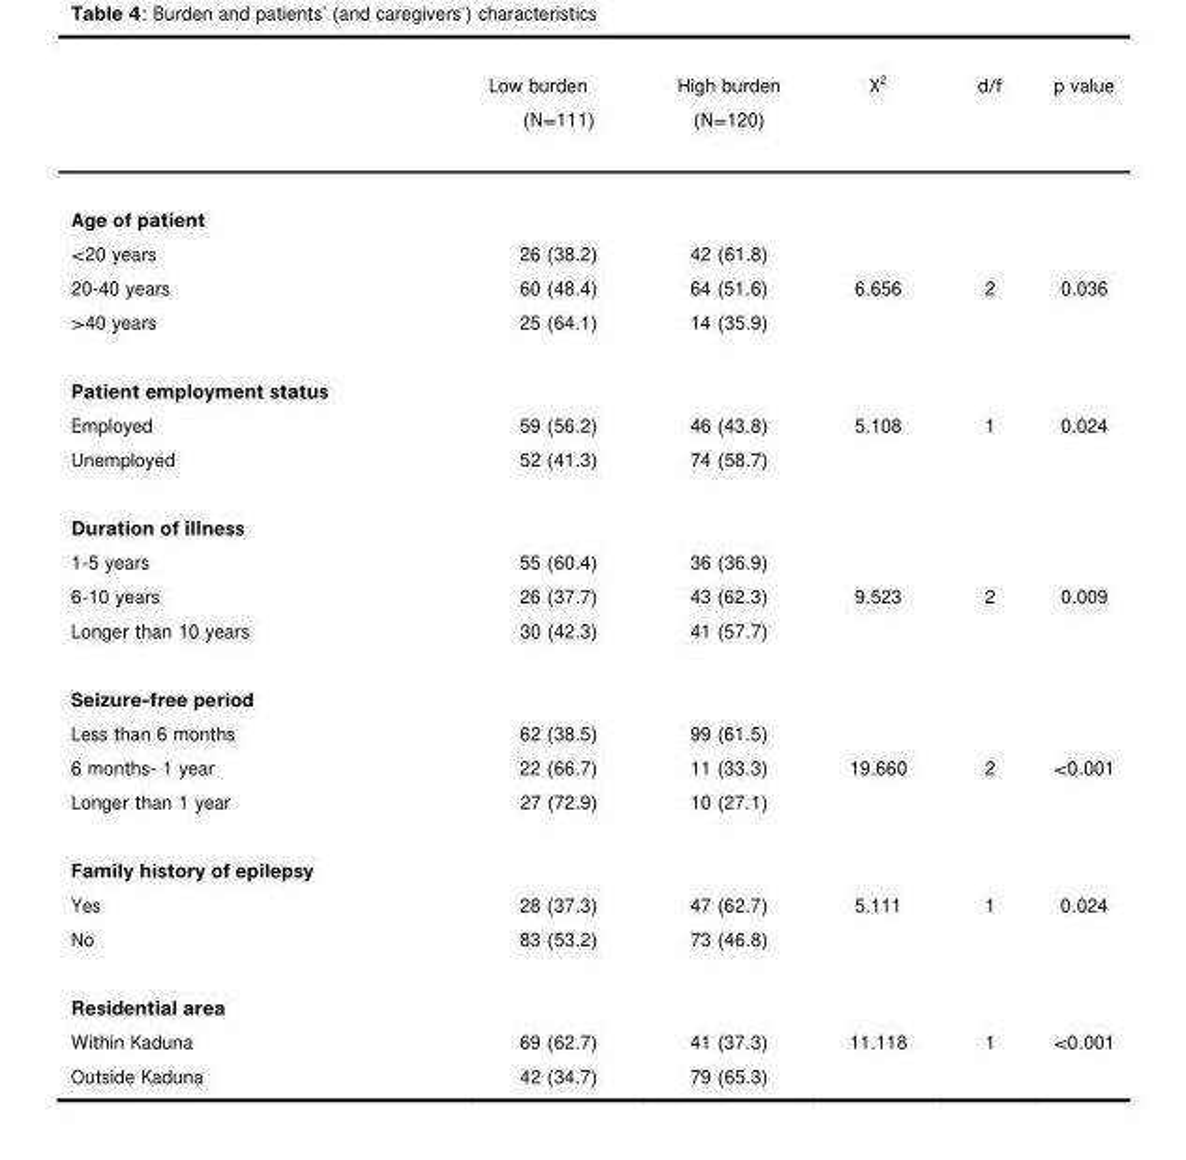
<table><thead><tr><td></td><td>Low burden (N=111)</td><td>High burden (N=120)</td><td>X<sup>2</sup></td><td>d/f</td><td>p value</td></tr></thead><tbody><tr><td colspan="6">Age of patient</td></tr><tr><td>&lt;20 years</td><td>26 (38.2)</td><td>42 (61.8)</td><td></td><td></td><td></td></tr><tr><td>20-40 years</td><td>60 (48.4)</td><td>64 (51.6)</td><td>6.656</td><td>2</td><td>0.036</td></tr><tr><td>&gt;40 years</td><td>25 (64.1)</td><td>14 (35.9)</td><td></td><td></td><td></td></tr><tr><td colspan="6">Patient employment status</td></tr><tr><td>Employed</td><td>59 (56.2)</td><td>46 (43.8)</td><td>5.108</td><td>1</td><td>0.024</td></tr><tr><td>Unemployed</td><td>52 (41.3)</td><td>74 (58.7)</td><td></td><td></td><td></td></tr><tr><td colspan="6">Duration of illness</td></tr><tr><td>1-5 years</td><td>55 (60.4)</td><td>36 (36.9)</td><td></td><td></td><td></td></tr><tr><td>6-10 years</td><td>26 (37.7)</td><td>43 (62.3)</td><td>9.523</td><td>2</td><td>0.009</td></tr><tr><td>Longer than 10 years</td><td>30 (42.3)</td><td>41 (57.7)</td><td></td><td></td><td></td></tr><tr><td colspan="6">Seizure-free period</td></tr><tr><td>Less than 6 months</td><td>62 (38.5)</td><td>99 (61.5)</td><td></td><td></td><td></td></tr><tr><td>6 months- 1 year</td><td>22 (66.7)</td><td>11 (33.3)</td><td>19.660</td><td>2</td><td>&lt;0.001</td></tr><tr><td>Longer than 1 year</td><td>27 (72.9)</td><td>10 (27.1)</td><td></td><td></td><td></td></tr><tr><td colspan="6">Family history of epilepsy</td></tr><tr><td>Yes</td><td>28 (37.3)</td><td>47 (62.7)</td><td>5.111</td><td>1</td><td>0.024</td></tr><tr><td>No</td><td>83 (53.2)</td><td>73 (46.8)</td><td></td><td></td><td></td></tr><tr><td colspan="6">Residential area</td></tr><tr><td>Within Kaduna</td><td>69 (62.7)</td><td>41 (37.3)</td><td>11.118</td><td>1</td><td>&lt;0.001</td></tr><tr><td>Outside Kaduna</td><td>42 (34.7)</td><td>79 (65.3)</td><td></td><td></td><td></td></tr></tbody></table>